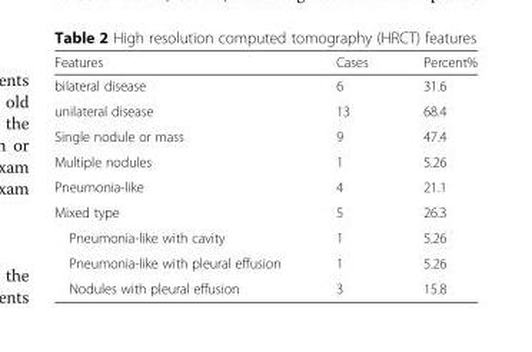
<table><thead><tr><td>Features</td><td>Cases</td><td>Percent%</td></tr></thead><tbody><tr><td>bilateral disease</td><td>6</td><td>31.6</td></tr><tr><td>unilateral disease</td><td>13</td><td>68.4</td></tr><tr><td>Single nodule or mass</td><td>9</td><td>47.4</td></tr><tr><td>Multiple nodules</td><td>1</td><td>5.26</td></tr><tr><td>Pneumonia-like</td><td>4</td><td>21.1</td></tr><tr><td>Mixed type</td><td>5</td><td>26.3</td></tr><tr><td>Pneumonia-like with cavity</td><td>1</td><td>5.26</td></tr><tr><td>Pneumonia-like with pleural effusion</td><td>1</td><td>5.26</td></tr><tr><td>Nodules with pleural effusion</td><td>3</td><td>15.8</td></tr></tbody></table>